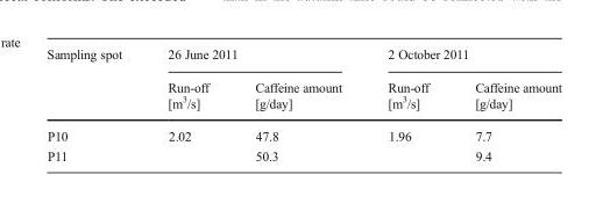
<table><thead><tr><td rowspan="2">Sampling spot</td><td colspan="2">26 June 2011</td><td colspan="2">2 October 2011</td></tr><tr><td>Run-off [m<sup>3</sup>/s]</td><td>Caffeine amount [g/day]</td><td>Run-off [m<sup>3</sup>/s]</td><td>Caffeine amount [g/day]</td></tr></thead><tbody><tr><td>P10</td><td rowspan="2">2.02</td><td>47.8</td><td rowspan="2">1.96</td><td>7.7</td></tr><tr><td>P11</td><td>50.3</td><td>9.4</td></tr></tbody></table>